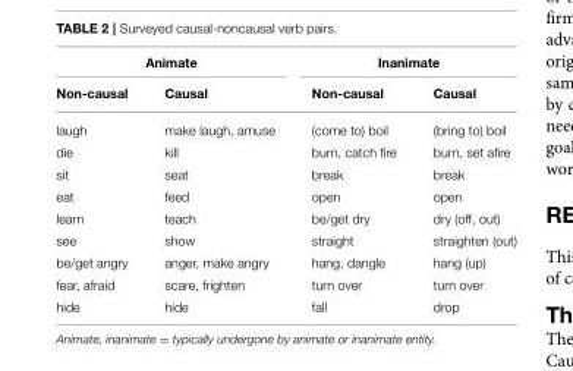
<table><thead><tr><td colspan="2">Animate</td><td colspan="2">Inanimate</td></tr><tr><td>Non-causal</td><td>Causal</td><td>Non-causal</td><td>Causal</td></tr></thead><tbody><tr><td>laugh</td><td>make laugh, amuse</td><td>(come to) boil</td><td>(bring to) boil</td></tr><tr><td>die</td><td>kill</td><td>burn, catch fire</td><td>burn, set afire</td></tr><tr><td>sit</td><td>seat</td><td>break</td><td>break</td></tr><tr><td>eat</td><td>feed</td><td>open</td><td>open</td></tr><tr><td>learn</td><td>teach</td><td>be/get dry</td><td>dry (off, out)</td></tr><tr><td>see</td><td>show</td><td>straight</td><td>straighten (out)</td></tr><tr><td>be/get angry</td><td>anger, make angry</td><td>hang, dangle</td><td>hang (up)</td></tr><tr><td>fear, afraid</td><td>scare, frighten</td><td>turn over</td><td>turn over</td></tr><tr><td>hide</td><td>hide</td><td>fall</td><td>drop</td></tr></tbody></table>